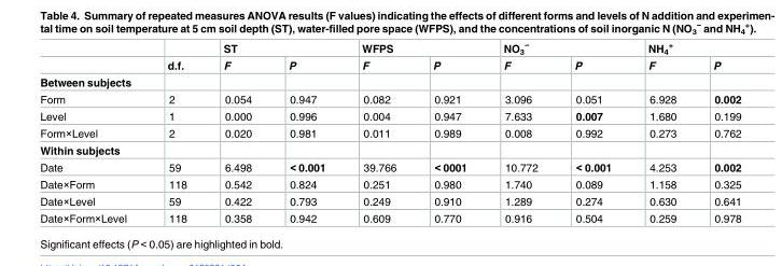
<table><thead><tr><td rowspan="2"></td><td rowspan="2">d.f.</td><td colspan="2">ST</td><td colspan="2">WFPS</td><td colspan="2">NO<sub>3</sub> <sup>−</sup></td><td colspan="2">NH<sub>4</sub> <sup>+</sup></td></tr><tr><td>F</td><td>P</td><td>F</td><td>P</td><td>F</td><td>P</td><td>F</td><td>P</td></tr></thead><tbody><tr><td colspan="10">Between subjects</td></tr><tr><td>Form</td><td>2</td><td>0.054</td><td>0.947</td><td>0.082</td><td>0.921</td><td>3.096</td><td>0.051</td><td>6.928</td><td>0.002</td></tr><tr><td>Level</td><td>1</td><td>0.000</td><td>0.996</td><td>0.004</td><td>0.947</td><td>7.633</td><td>0.007</td><td>1.680</td><td>0.199</td></tr><tr><td>Form×Level</td><td>2</td><td>0.020</td><td>0.981</td><td>0.011</td><td>0.989</td><td>0.008</td><td>0.992</td><td>0.273</td><td>0.762</td></tr><tr><td colspan="10">Within subjects</td></tr><tr><td>Date</td><td>59</td><td>6.498</td><td>&lt; 0.001</td><td>39.766</td><td>&lt; 0001</td><td>10.772</td><td>&lt; 0.001</td><td>4.253</td><td>0.002</td></tr><tr><td>Date×Form</td><td>118</td><td>0.542</td><td>0.824</td><td>0.251</td><td>0.980</td><td>1.740</td><td>0.089</td><td>1.158</td><td>0.325</td></tr><tr><td>Date×Level</td><td>59</td><td>0.422</td><td>0.793</td><td>0.249</td><td>0.910</td><td>1.289</td><td>0.274</td><td>0.630</td><td>0.641</td></tr><tr><td>Date×Form×Level</td><td>118</td><td>0.358</td><td>0.942</td><td>0.609</td><td>0.770</td><td>0.916</td><td>0.504</td><td>0.259</td><td>0.978</td></tr></tbody></table>